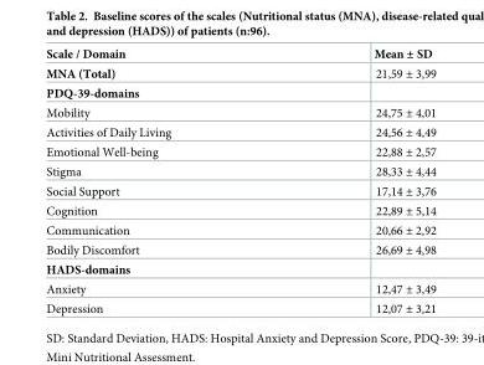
<table><thead><tr><td>Scale / Domain</td><td>Mean ± SD</td></tr></thead><tbody><tr><td>MNA (Total)</td><td>21,59 ± 3,99</td></tr><tr><td colspan="2">PDQ-39-domains</td></tr><tr><td>Mobility</td><td>24,75 ± 4,01</td></tr><tr><td>Activities of Daily Living</td><td>24,56 ± 4,49</td></tr><tr><td>Emotional Well-being</td><td>22,88 ± 2,57</td></tr><tr><td>Stigma</td><td>28,33 ± 4,44</td></tr><tr><td>Social Support</td><td>17,14 ± 3,76</td></tr><tr><td>Cognition</td><td>22,89 ± 5,14</td></tr><tr><td>Communication</td><td>20,66 ± 2,92</td></tr><tr><td>Bodily Discomfort</td><td>26,69 ± 4,98</td></tr><tr><td colspan="2">HADS-domains</td></tr><tr><td>Anxiety</td><td>12,47 ± 3,49</td></tr><tr><td>Depression</td><td>12,07 ± 3,21</td></tr></tbody></table>